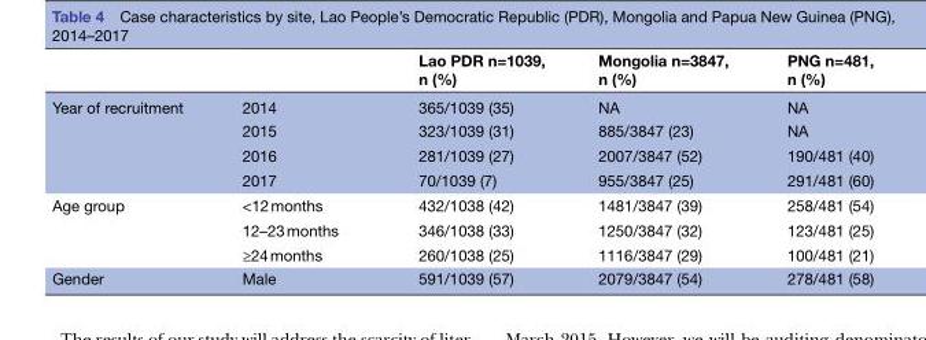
<table><thead><tr><td></td><td></td><td>Lao PDR n=1039, n (%)</td><td>Mongolia n=3847, n (%)</td><td>PNG n=481, n (%)</td></tr></thead><tbody><tr><td rowspan="4">Year of recruitment</td><td>2014</td><td>365/1039 (35)</td><td>NA</td><td>NA</td></tr><tr><td>2015</td><td>323/1039 (31)</td><td>885/3847 (23)</td><td>NA</td></tr><tr><td>2016</td><td>281/1039 (27)</td><td>2007/3847 (52)</td><td>190/481 (40)</td></tr><tr><td>2017</td><td>70/1039 (7)</td><td>955/3847 (25)</td><td>291/481 (60)</td></tr><tr><td rowspan="3">Age group</td><td>&lt;12 months</td><td>432/1038 (42)</td><td>1481/3847 (39)</td><td>258/481 (54)</td></tr><tr><td>12–23 months</td><td>346/1038 (33)</td><td>1250/3847 (32)</td><td>123/481 (25)</td></tr><tr><td>≥24 months</td><td>260/1038 (25)</td><td>1116/3847 (29)</td><td>100/481 (21)</td></tr><tr><td>Gender</td><td>Male</td><td>591/1039 (57)</td><td>2079/3847 (54)</td><td>278/481 (58)</td></tr></tbody></table>